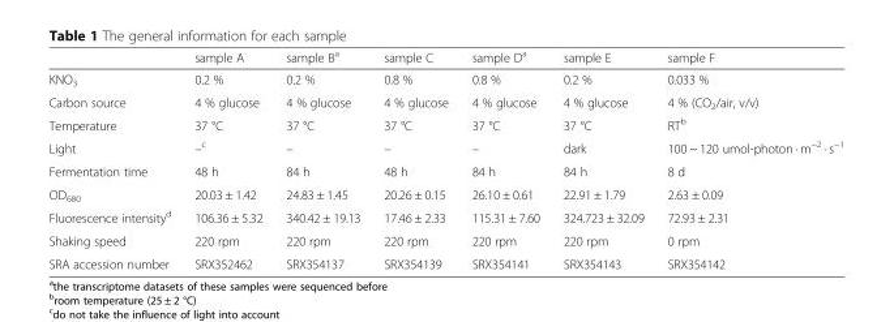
<table><thead><tr><td></td><td>sample A</td><td>sample B<sup>a</sup></td><td>sample C</td><td>sample D<sup>a</sup></td><td>sample E</td><td>sample F</td></tr></thead><tbody><tr><td>KNO<sub>3</sub></td><td>0.2 %</td><td>0.2 %</td><td>0.8 %</td><td>0.8 %</td><td>0.2 %</td><td>0.033 %</td></tr><tr><td>Carbon source</td><td>4 % glucose</td><td>4 % glucose</td><td>4 % glucose</td><td>4 % glucose</td><td>4 % glucose</td><td>4 % (CO<sub>2</sub>/air, v/v)</td></tr><tr><td>Temperature</td><td>37 °C</td><td>37 °C</td><td>37 °C</td><td>37 °C</td><td>37 °C</td><td>RT<sup>b</sup></td></tr><tr><td>Light</td><td>–c</td><td>–</td><td>–</td><td>–</td><td>dark</td><td>100 ~ 120 umol-photon · m<sup>−2</sup> · s<sup>−1</sup></td></tr><tr><td>Fermentation time</td><td>48 h</td><td>84 h</td><td>48 h</td><td>84 h</td><td>84 h</td><td>8 d</td></tr><tr><td>OD<sub>680</sub></td><td>20.03 ± 1.42</td><td>24.83 ± 1.45</td><td>20.26 ± 0.15</td><td>26.10 ± 0.61</td><td>22.91 ± 1.79</td><td>2.63 ± 0.09</td></tr><tr><td>Fluorescence intensity<sup>d</sup></td><td>106.36 ± 5.32</td><td>340.42 ± 19.13</td><td>17.46 ± 2.33</td><td>115.31 ± 7.60</td><td>324.723 ± 32.09</td><td>72.93 ± 2.31</td></tr><tr><td>Shaking speed</td><td>220 rpm</td><td>220 rpm</td><td>220 rpm</td><td>220 rpm</td><td>220 rpm</td><td>0 rpm</td></tr><tr><td>SRA accession number</td><td>SRX352462</td><td>SRX354137</td><td>SRX354139</td><td>SRX354141</td><td>SRX354143</td><td>SRX354142</td></tr></tbody></table>